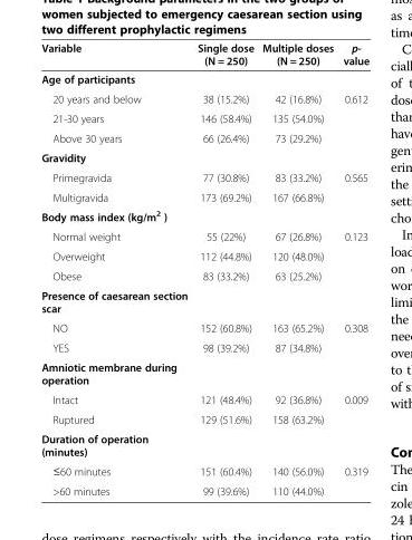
<table><thead><tr><td>Variable</td><td>Single dose (N = 250)</td><td>Multiple doses (N = 250)</td><td>p- value</td></tr></thead><tbody><tr><td colspan="4">Age of participants</td></tr><tr><td>20 years and below</td><td>38 (15.2%)</td><td>42 (16.8%)</td><td>0.612</td></tr><tr><td>21-30 years</td><td>146 (58.4%)</td><td>135 (54.0%)</td><td></td></tr><tr><td>Above 30 years</td><td>66 (26.4%)</td><td>73 (29.2%)</td><td></td></tr><tr><td colspan="4">Gravidity</td></tr><tr><td>Primegravida</td><td>77 (30.8%)</td><td>83 (33.2%)</td><td>0.565</td></tr><tr><td>Multigravida</td><td>173 (69.2%)</td><td>167 (66.8%)</td><td></td></tr><tr><td colspan="4">Body mass index (kg/m<sup>2</sup> )</td></tr><tr><td>Normal weight</td><td>55 (22%)</td><td>67 (26.8%)</td><td>0.123</td></tr><tr><td>Overweight</td><td>112 (44.8%)</td><td>120 (48.0%)</td><td></td></tr><tr><td>Obese</td><td>83 (33.2%)</td><td>63 (25.2%)</td><td></td></tr><tr><td colspan="4">Presence of caesarean section scar</td></tr><tr><td>NO</td><td>152 (60.8%)</td><td>163 (65.2%)</td><td>0.308</td></tr><tr><td>YES</td><td>98 (39.2%)</td><td>87 (34.8%)</td><td></td></tr><tr><td colspan="4">Amniotic membrane during operation</td></tr><tr><td>Intact</td><td>121 (48.4%)</td><td>92 (36.8%)</td><td>0.009</td></tr><tr><td>Ruptured</td><td>129 (51.6%)</td><td>158 (63.2%)</td><td></td></tr><tr><td colspan="4">Duration of operation (minutes)</td></tr><tr><td>≤60 minutes</td><td>151 (60.4%)</td><td>140 (56.0%)</td><td>0.319</td></tr><tr><td>&gt;60 minutes</td><td>99 (39.6%)</td><td>110 (44.0%)</td><td></td></tr></tbody></table>